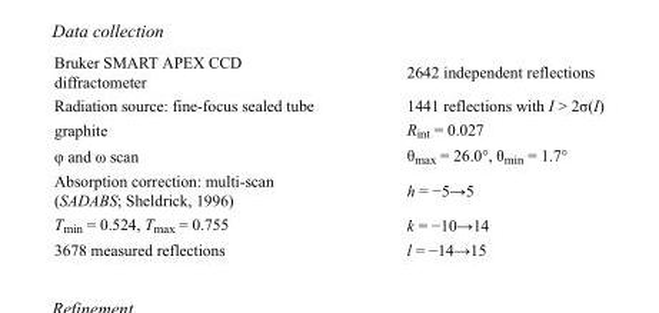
<table><tbody><tr><td>Bruker SMART APEX CCD diffractometer</td><td>2642 independent reflections</td></tr><tr><td>Radiation source: fine-focus sealed tube</td><td>1441 reflections with I &gt; 2σ(I)</td></tr><tr><td>graphite</td><td>R<sub>int</sub> = 0.027</td></tr><tr><td>φ and ω scan</td><td>θ<sub>max</sub> = 26.0°, θ<sub>min</sub> = 1.7°</td></tr><tr><td>Absorption correction: multi-scan (SADABS; Sheldrick, 1996)</td><td>h = −5→5</td></tr><tr><td>T<sub>min</sub> = 0.524, T<sub>max</sub> = 0.755</td><td>k = −10→14</td></tr><tr><td>3678 measured reflections</td><td>l = −14→15</td></tr></tbody></table>